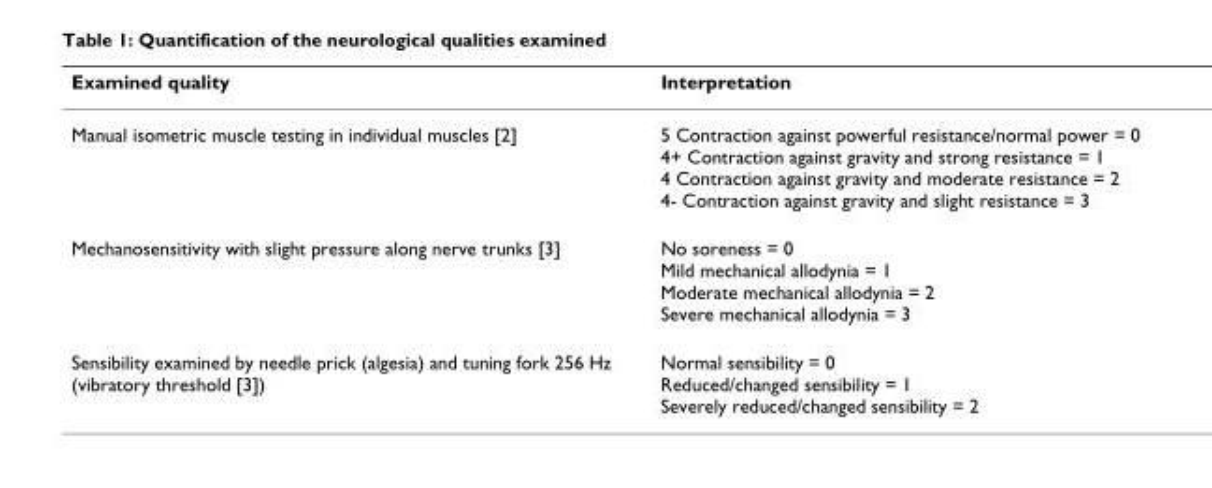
<table><thead><tr><td>Examined quality</td><td>Interpretation</td></tr></thead><tbody><tr><td>Manual isometric muscle testing in individual muscles [2]</td><td>5 Contraction against powerful resistance/normal power = 0 4+ Contraction against gravity and strong resistance = 1 4 Contraction against gravity and moderate resistance = 2 4- Contraction against gravity and slight resistance = 3</td></tr><tr><td>Mechanosensitivity with slight pressure along nerve trunks [3]</td><td>No soreness = 0 Mild mechanical allodynia = 1 Moderate mechanical allodynia = 2 Severe mechanical allodynia = 3</td></tr><tr><td>Sensibility examined by needle prick (algesia) and tuning fork 256 Hz (vibratory threshold [3])</td><td>Normal sensibility = 0 Reduced/changed sensibility = 1 Severely reduced/changed sensibility = 2</td></tr></tbody></table>